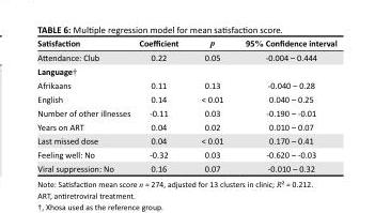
<table><thead><tr><td>Satisfaction</td><td>Coefficient</td><td>p</td><td>95% Confidence interval</td></tr></thead><tbody><tr><td>Attendance: Club</td><td>0.22</td><td>0.05</td><td>-0.004 – 0.444</td></tr><tr><td colspan="4">Language†</td></tr><tr><td>Afrikaans</td><td>0.11</td><td>0.13</td><td>-0.040 – 0.28</td></tr><tr><td>English</td><td>0.14</td><td>&lt; 0.01</td><td>0.040 – 0.25</td></tr><tr><td>Number of other illnesses</td><td>-0.11</td><td>0.03</td><td>-0.190 – -0.01</td></tr><tr><td>Years on ART</td><td>0.04</td><td>0.02</td><td>0.010 – 0.07</td></tr><tr><td>Last missed dose</td><td>0.04</td><td>&lt; 0.01</td><td>0.170 – 0.41</td></tr><tr><td>Feeling well: No</td><td>-0.32</td><td>0.03</td><td>-0.620 – -0.03</td></tr><tr><td>Viral suppression: No</td><td>0.16</td><td>0.07</td><td>-0.010 – 0.32</td></tr></tbody></table>